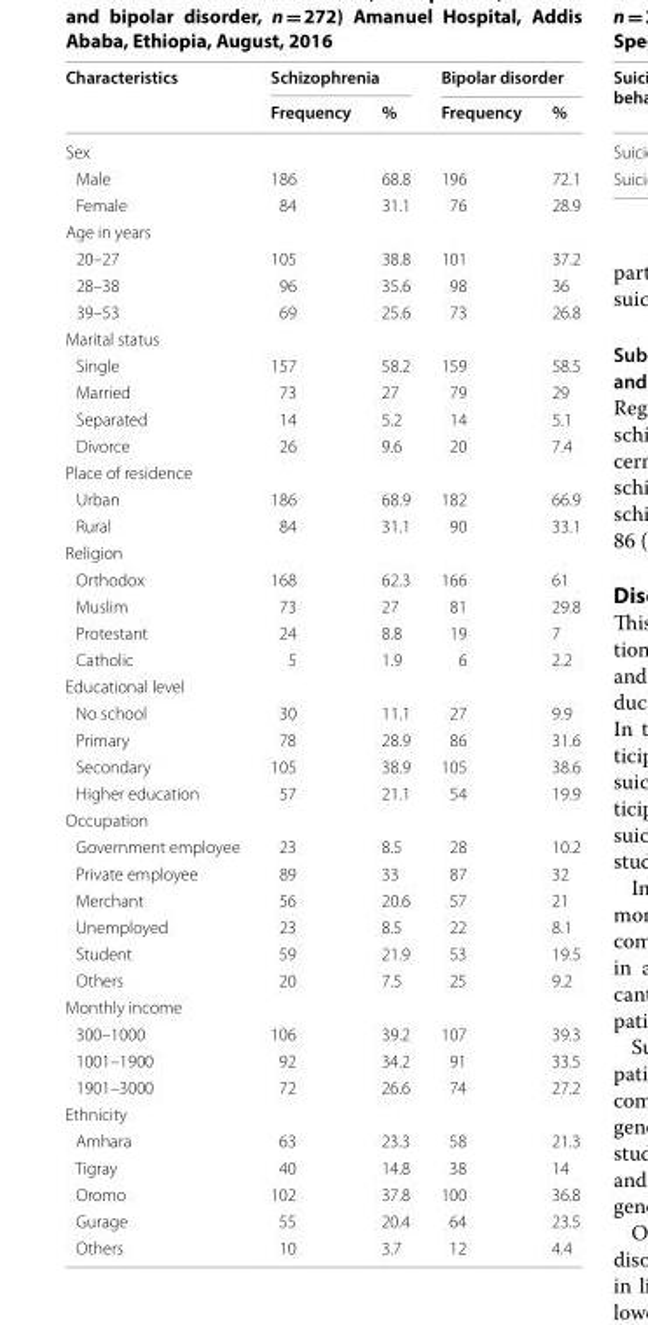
<table><thead><tr><td rowspan="2">Characteristics</td><td colspan="2">Schizophrenia</td><td colspan="2">Bipolar disorder</td></tr><tr><td>Frequency</td><td>%</td><td>Frequency</td><td>%</td></tr></thead><tbody><tr><td colspan="5">Sex</td></tr><tr><td>Male</td><td>186</td><td>68.8</td><td>196</td><td>72.1</td></tr><tr><td>Female</td><td>84</td><td>31.1</td><td>76</td><td>28.9</td></tr><tr><td colspan="5">Age in years</td></tr><tr><td>20–27</td><td>105</td><td>38.8</td><td>101</td><td>37.2</td></tr><tr><td>28–38</td><td>96</td><td>35.6</td><td>98</td><td>36</td></tr><tr><td>39–53</td><td>69</td><td>25.6</td><td>73</td><td>26.8</td></tr><tr><td colspan="5">Marital status</td></tr><tr><td>Single</td><td>157</td><td>58.2</td><td>159</td><td>58.5</td></tr><tr><td>Married</td><td>73</td><td>27</td><td>79</td><td>29</td></tr><tr><td>Separated</td><td>14</td><td>5.2</td><td>14</td><td>5.1</td></tr><tr><td>Divorce</td><td>26</td><td>9.6</td><td>20</td><td>7.4</td></tr><tr><td colspan="5">Place of residence</td></tr><tr><td>Urban</td><td>186</td><td>68.9</td><td>182</td><td>66.9</td></tr><tr><td>Rural</td><td>84</td><td>31.1</td><td>90</td><td>33.1</td></tr><tr><td colspan="5">Religion</td></tr><tr><td>Orthodox</td><td>168</td><td>62.3</td><td>166</td><td>61</td></tr><tr><td>Muslim</td><td>73</td><td>27</td><td>81</td><td>29.8</td></tr><tr><td>Protestant</td><td>24</td><td>8.8</td><td>19</td><td>7</td></tr><tr><td>Catholic</td><td>5</td><td>1.9</td><td>6</td><td>2.2</td></tr><tr><td colspan="5">Educational level</td></tr><tr><td>No school</td><td>30</td><td>11.1</td><td>27</td><td>9.9</td></tr><tr><td>Primary</td><td>78</td><td>28.9</td><td>86</td><td>31.6</td></tr><tr><td>Secondary</td><td>105</td><td>38.9</td><td>105</td><td>38.6</td></tr><tr><td>Higher education</td><td>57</td><td>21.1</td><td>54</td><td>19.9</td></tr><tr><td colspan="5">Occupation</td></tr><tr><td>Government employee</td><td>23</td><td>8.5</td><td>28</td><td>10.2</td></tr><tr><td>Private employee</td><td>89</td><td>33</td><td>87</td><td>32</td></tr><tr><td>Merchant</td><td>56</td><td>20.6</td><td>57</td><td>21</td></tr><tr><td>Unemployed</td><td>23</td><td>8.5</td><td>22</td><td>8.1</td></tr><tr><td>Student</td><td>59</td><td>21.9</td><td>53</td><td>19.5</td></tr><tr><td>Others</td><td>20</td><td>7.5</td><td>25</td><td>9.2</td></tr><tr><td colspan="5">Monthly income</td></tr><tr><td>300–1000</td><td>106</td><td>39.2</td><td>107</td><td>39.3</td></tr><tr><td>1001–1900</td><td>92</td><td>34.2</td><td>91</td><td>33.5</td></tr><tr><td>1901–3000</td><td>72</td><td>26.6</td><td>74</td><td>27.2</td></tr><tr><td colspan="5">Ethnicity</td></tr><tr><td>Amhara</td><td>63</td><td>23.3</td><td>58</td><td>21.3</td></tr><tr><td>Tigray</td><td>40</td><td>14.8</td><td>38</td><td>14</td></tr><tr><td>Oromo</td><td>102</td><td>37.8</td><td>100</td><td>36.8</td></tr><tr><td>Gurage</td><td>55</td><td>20.4</td><td>64</td><td>23.5</td></tr><tr><td>Others</td><td>10</td><td>3.7</td><td>12</td><td>4.4</td></tr></tbody></table>